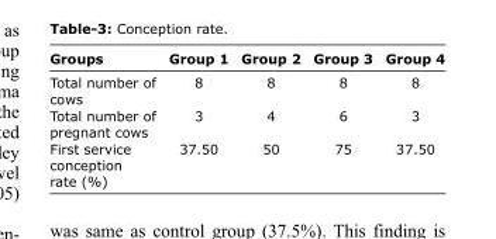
<table><thead><tr><td>Groups</td><td>Group 1</td><td>Group 2</td><td>Group 3</td><td>Group 4</td></tr></thead><tbody><tr><td>Total number of cows</td><td>8</td><td>8</td><td>8</td><td>8</td></tr><tr><td>Total number of pregnant cows</td><td>3</td><td>4</td><td>6</td><td>3</td></tr><tr><td>First service conception rate (%)</td><td>37.50</td><td>50</td><td>75</td><td>37.50</td></tr></tbody></table>